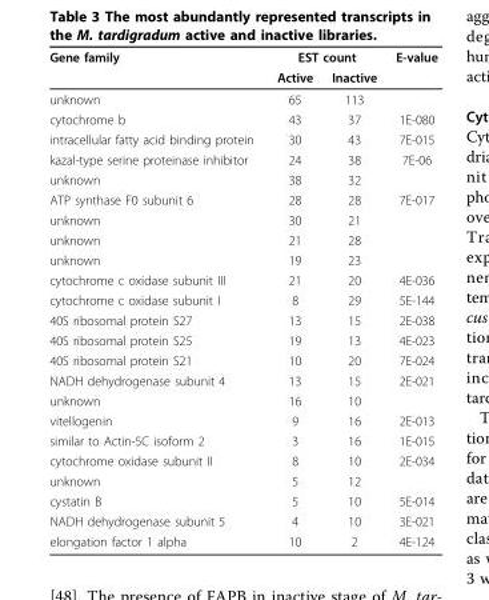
<table><thead><tr><td rowspan="2">Gene family</td><td colspan="2">EST count</td><td rowspan="2">E-value</td></tr><tr><td>Active</td><td>Inactive</td></tr></thead><tbody><tr><td>unknown</td><td>65</td><td>113</td><td></td></tr><tr><td>cytochrome b</td><td>43</td><td>37</td><td>1E-080</td></tr><tr><td>intracellular fatty acid binding protein</td><td>30</td><td>43</td><td>7E-015</td></tr><tr><td>kazal-type serine proteinase inhibitor</td><td>24</td><td>38</td><td>7E-06</td></tr><tr><td>unknown</td><td>38</td><td>32</td><td></td></tr><tr><td>ATP synthase F0 subunit 6</td><td>28</td><td>28</td><td>7E-017</td></tr><tr><td>unknown</td><td>30</td><td>21</td><td></td></tr><tr><td>unknown</td><td>21</td><td>28</td><td></td></tr><tr><td>unknown</td><td>19</td><td>23</td><td></td></tr><tr><td>cytochrome c oxidase subunit III</td><td>21</td><td>20</td><td>4E-036</td></tr><tr><td>cytochrome c oxidase subunit I</td><td>8</td><td>29</td><td>5E-144</td></tr><tr><td>40S ribosomal protein S27</td><td>13</td><td>15</td><td>2E-038</td></tr><tr><td>40S ribosomal protein S25</td><td>19</td><td>13</td><td>4E-023</td></tr><tr><td>40S ribosomal protein S21</td><td>10</td><td>20</td><td>7E-024</td></tr><tr><td>NADH dehydrogenase subunit 4</td><td>13</td><td>15</td><td>2E-021</td></tr><tr><td>unknown</td><td>16</td><td>10</td><td></td></tr><tr><td>vitellogenin</td><td>9</td><td>16</td><td>2E-013</td></tr><tr><td>similar to Actin-5C isoform 2</td><td>3</td><td>16</td><td>1E-015</td></tr><tr><td>cytochrome oxidase subunit II</td><td>8</td><td>10</td><td>2E-034</td></tr><tr><td>unknown</td><td>5</td><td>12</td><td></td></tr><tr><td>cystatin B</td><td>5</td><td>10</td><td>5E-014</td></tr><tr><td>NADH dehydrogenase subunit 5</td><td>4</td><td>10</td><td>3E-021</td></tr><tr><td>elongation factor 1 alpha</td><td>10</td><td>2</td><td>4E-124</td></tr></tbody></table>